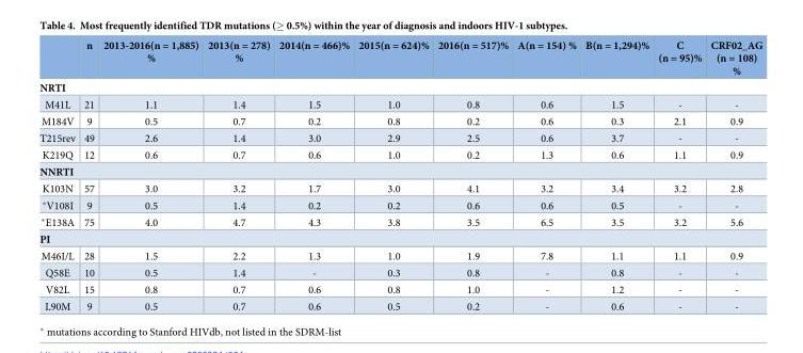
<table><thead><tr><td></td><td>n</td><td>2013-2016(n = 1,885) %</td><td>2013(n = 278) %</td><td>2014(n = 466)%</td><td>2015(n = 624)%</td><td>2016(n = 517)%</td><td>A(n = 154) %</td><td>B(n = 1,294)%</td><td>C (n = 95)%</td><td>CRF02_AG (n = 108) %</td></tr></thead><tbody><tr><td colspan="11">NRTI</td></tr><tr><td>M41L</td><td>21</td><td>1.1</td><td>1.4</td><td>1.5</td><td>1.0</td><td>0.8</td><td>0.6</td><td>1.5</td><td>-</td><td>-</td></tr><tr><td>M184V</td><td>9</td><td>0.5</td><td>0.7</td><td>0.2</td><td>0.8</td><td>0.2</td><td>0.6</td><td>0.3</td><td>2.1</td><td>0.9</td></tr><tr><td>T215rev</td><td>49</td><td>2.6</td><td>1.4</td><td>3.0</td><td>2.9</td><td>2.5</td><td>0.6</td><td>3.7</td><td>-</td><td>-</td></tr><tr><td>K219Q</td><td>12</td><td>0.6</td><td>0.7</td><td>0.6</td><td>1.0</td><td>0.2</td><td>1.3</td><td>0.6</td><td>1.1</td><td>0.9</td></tr><tr><td colspan="11">NNRTI</td></tr><tr><td>K103N</td><td>57</td><td>3.0</td><td>3.2</td><td>1.7</td><td>3.0</td><td>4.1</td><td>3.2</td><td>3.4</td><td>3.2</td><td>2.8</td></tr><tr><td>*V108I</td><td>9</td><td>0.5</td><td>1.4</td><td>0.2</td><td>0.2</td><td>0.6</td><td>0.6</td><td>0.5</td><td>-</td><td>-</td></tr><tr><td>*E138A</td><td>75</td><td>4.0</td><td>4.7</td><td>4.3</td><td>3.8</td><td>3.5</td><td>6.5</td><td>3.5</td><td>3.2</td><td>5.6</td></tr><tr><td colspan="11">PI</td></tr><tr><td>M46I/L</td><td>28</td><td>1.5</td><td>2.2</td><td>1.3</td><td>1.0</td><td>1.9</td><td>7.8</td><td>1.1</td><td>1.1</td><td>0.9</td></tr><tr><td>Q58E</td><td>10</td><td>0.5</td><td>1.4</td><td>-</td><td>0.3</td><td>0.8</td><td>-</td><td>0.8</td><td>-</td><td>-</td></tr><tr><td>V82L</td><td>15</td><td>0.8</td><td>0.7</td><td>0.6</td><td>0.8</td><td>1.0</td><td>-</td><td>1.2</td><td>-</td><td>-</td></tr><tr><td>L90M</td><td>9</td><td>0.5</td><td>0.7</td><td>0.6</td><td>0.5</td><td>0.2</td><td>-</td><td>0.6</td><td>-</td><td>-</td></tr></tbody></table>